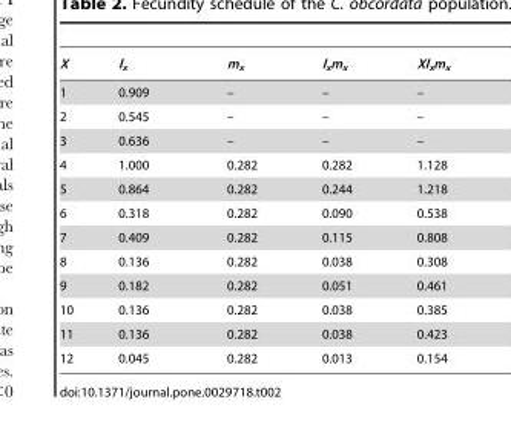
<table><thead><tr><td>X</td><td>l<sub>x</sub></td><td>m<sub>x</sub></td><td>l<sub>x</sub>m<sub>x</sub></td><td>Xl<sub>x</sub>m<sub>x</sub></td></tr></thead><tbody><tr><td>1</td><td>0.909</td><td>–</td><td>–</td><td>–</td></tr><tr><td>2</td><td>0.545</td><td>–</td><td>–</td><td>–</td></tr><tr><td>3</td><td>0.636</td><td>–</td><td>–</td><td>–</td></tr><tr><td>4</td><td>1.000</td><td>0.282</td><td>0.282</td><td>1.128</td></tr><tr><td>5</td><td>0.864</td><td>0.282</td><td>0.244</td><td>1.218</td></tr><tr><td>6</td><td>0.318</td><td>0.282</td><td>0.090</td><td>0.538</td></tr><tr><td>7</td><td>0.409</td><td>0.282</td><td>0.115</td><td>0.808</td></tr><tr><td>8</td><td>0.136</td><td>0.282</td><td>0.038</td><td>0.308</td></tr><tr><td>9</td><td>0.182</td><td>0.282</td><td>0.051</td><td>0.461</td></tr><tr><td>10</td><td>0.136</td><td>0.282</td><td>0.038</td><td>0.385</td></tr><tr><td>11</td><td>0.136</td><td>0.282</td><td>0.038</td><td>0.423</td></tr><tr><td>12</td><td>0.045</td><td>0.282</td><td>0.013</td><td>0.154</td></tr></tbody></table>